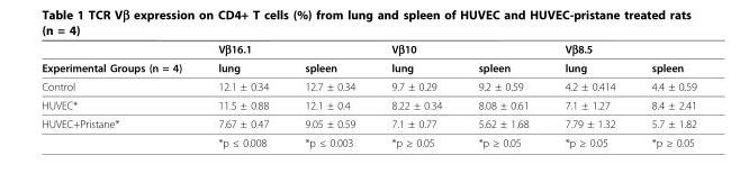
<table><thead><tr><td rowspan="2">Experimental Groups (n = 4)</td><td colspan="2">Vβ16.1</td><td colspan="2">Vβ10</td><td colspan="2">Vβ8.5</td></tr><tr><td>lung</td><td>spleen</td><td>lung</td><td>spleen</td><td>lung</td><td>spleen</td></tr></thead><tbody><tr><td>Control</td><td>12.1 ± 0.34</td><td>12.7 ± 0.34</td><td>9.7 ± 0.29</td><td>9.2 ± 0.59</td><td>4.2 ± 0.414</td><td>4.4 ± 0.59</td></tr><tr><td>HUVEC*</td><td>11.5 ± 0.88</td><td>12.1 ± 0.4</td><td>8.22 ± 0.34</td><td>8.08 ± 0.61</td><td>7.1 ± 1.27</td><td>8.4 ± 2.41</td></tr><tr><td rowspan="2">HUVEC+Pristane*</td><td>7.67 ± 0.47</td><td>9.05 ± 0.59</td><td>7.1 ± 0.77</td><td>5.62 ± 1.68</td><td>7.79 ± 1.32</td><td>5.7 ± 1.82</td></tr><tr><td>*p ≤ 0.008</td><td>*p ≤ 0.003</td><td>*p ≥ 0.05</td><td>*p ≥ 0.05</td><td>*p ≥ 0.05</td><td>*p ≥ 0.05</td></tr></tbody></table>